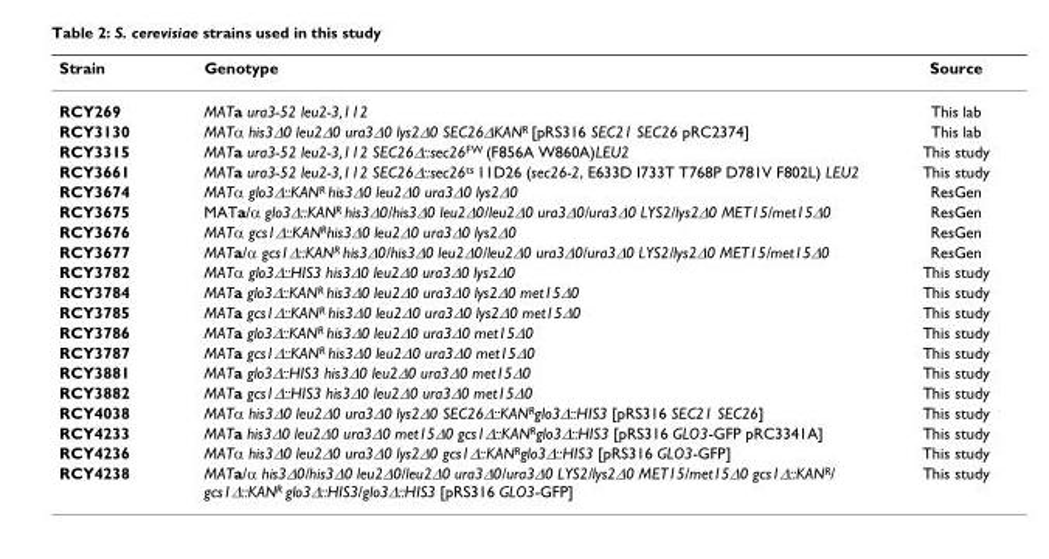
<table><thead><tr><td>Strain</td><td>Genotype</td><td>Source</td></tr></thead><tbody><tr><td>RCY269</td><td>MATa ura3-52 leu2-3,112</td><td>This lab</td></tr><tr><td>RCY3130</td><td>MATα his3Δ0 leu2Δ0 ura3Δ0 lys2Δ0 SEC26ΔKAN<sup>R</sup> [pRS316 SEC21 SEC26 pRC2374]</td><td>This lab</td></tr><tr><td>RCY3315</td><td>MATa ura3-52 leu2-3,112 SEC26Δ::sec26<sup>FW</sup> (F856A W860A)LEU2</td><td>This study</td></tr><tr><td>RCY3661</td><td>MATa ura3-52 leu2-3,112 SEC26Δ::sec26<sup>ts</sup> 11D26 (sec26-2, E633D I733T T768P D781V F802L) LEU2</td><td>This study</td></tr><tr><td>RCY3674</td><td>MATα glo3Δ::KAN<sup>R</sup> his3Δ0 leu2Δ0 ura3Δ0 lys2Δ0</td><td>ResGen</td></tr><tr><td>RCY3675</td><td>MATa/α glo3Δ::KAN<sup>R</sup> his3Δ0/his3Δ0 leu2Δ0/leu2Δ0 ura3Δ0/ura3Δ0 LYS2/lys2Δ0 MET15/met15Δ0</td><td>ResGen</td></tr><tr><td>RCY3676</td><td>MATα gcs1Δ::KAN<sup>R</sup>his3Δ0 leu2Δ0 ura3Δ0 lys2Δ0</td><td>ResGen</td></tr><tr><td>RCY3677</td><td>MATa/α gcs1Δ::KAN<sup>R</sup> his3Δ0/his3Δ0 leu2Δ0/leu2Δ0 ura3Δ0/ura3Δ0 LYS2/lys2Δ0 MET15/met15Δ0</td><td>ResGen</td></tr><tr><td>RCY3782</td><td>MATα glo3Δ::HIS3 his3Δ0 leu2Δ0 ura3Δ0 lys2Δ0</td><td>This study</td></tr><tr><td>RCY3784</td><td>MATa glo3Δ::KAN<sup>R</sup> his3Δ0 leu2Δ0 ura3Δ0 lys2Δ0 met15Δ0</td><td>This study</td></tr><tr><td>RCY3785</td><td>MATa gcs1Δ::KAN<sup>R</sup> his3Δ0 leu2Δ0 ura3Δ0 lys2Δ0 met15Δ0</td><td>This study</td></tr><tr><td>RCY3786</td><td>MATa glo3Δ::KAN<sup>R</sup> his3Δ0 leu2Δ0 ura3Δ0 met15Δ0</td><td>This study</td></tr><tr><td>RCY3787</td><td>MATa gcs1Δ::KAN<sup>R</sup> his3Δ0 leu2Δ0 ura3Δ0 met15Δ0</td><td>This study</td></tr><tr><td>RCY3881</td><td>MATa glo3Δ::HIS3 his3Δ0 leu2Δ0 ura3Δ0 met15Δ0</td><td>This study</td></tr><tr><td>RCY3882</td><td>MATa gcs1Δ::HIS3 his3Δ0 leu2Δ0 ura3Δ0 met15Δ0</td><td>This study</td></tr><tr><td>RCY4038</td><td>MATα his3Δ0 leu2Δ0 ura3Δ0 lys2Δ0 SEC26Δ::KAN<sup>R</sup>glo3Δ::HIS3 [pRS316 SEC21 SEC26]</td><td>This study</td></tr><tr><td>RCY4233</td><td>MATa his3Δ0 leu2Δ0 ura3Δ0 met15Δ0 gcs1Δ::KAN<sup>R</sup>glo3Δ::HIS3 [pRS316 GLO3-GFP pRC3341A]</td><td>This study</td></tr><tr><td>RCY4236</td><td>MATα his3Δ0 leu2Δ0 ura3Δ0 lys2Δ0 gcs1Δ::KAN<sup>R</sup>glo3Δ::HIS3 [pRS316 GLO3-GFP]</td><td>This study</td></tr><tr><td>RCY4238</td><td>MATa/α his3Δ0/his3Δ0 leu2Δ0/leu2Δ0 ura3Δ0/ura3Δ0 LYS2/lys2Δ0 MET15/met15Δ0 gcs1Δ::KAN<sup>R</sup>/ gcs1Δ::KAN<sup>R</sup> glo3Δ::HIS3/glo3Δ::HIS3 [pRS316 GLO3-GFP]</td><td>This study</td></tr></tbody></table>